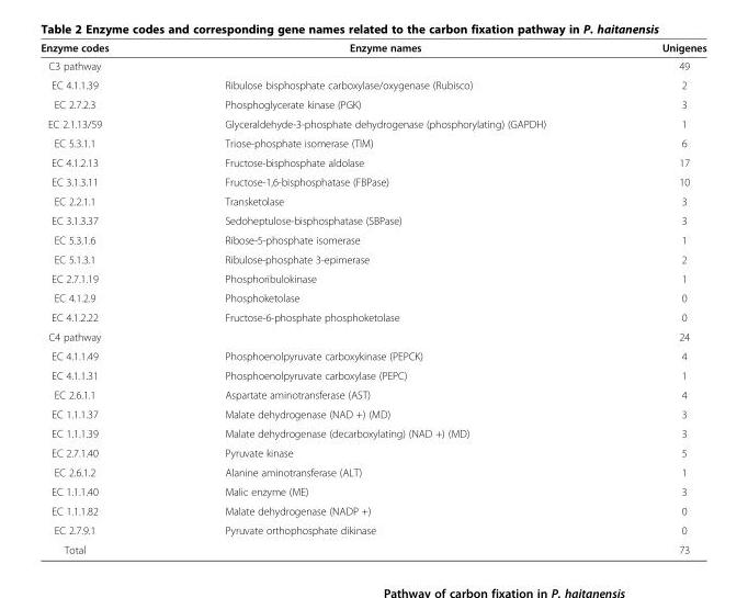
<table><thead><tr><td>Enzyme codes</td><td>Enzyme names</td><td>Unigenes</td></tr></thead><tbody><tr><td>C3 pathway</td><td></td><td>49</td></tr><tr><td>EC 4.1.1.39</td><td>Ribulose bisphosphate carboxylase/oxygenase (Rubisco)</td><td>2</td></tr><tr><td>EC 2.7.2.3</td><td>Phosphoglycerate kinase (PGK)</td><td>3</td></tr><tr><td>EC 2.1.13/59</td><td>Glyceraldehyde-3-phosphate dehydrogenase (phosphorylating) (GAPDH)</td><td>1</td></tr><tr><td>EC 5.3.1.1</td><td>Triose-phosphate isomerase (TIM)</td><td>6</td></tr><tr><td>EC 4.1.2.13</td><td>Fructose-bisphosphate aldolase</td><td>17</td></tr><tr><td>EC 3.1.3.11</td><td>Fructose-1,6-bisphosphatase (FBPase)</td><td>10</td></tr><tr><td>EC 2.2.1.1</td><td>Transketolase</td><td>3</td></tr><tr><td>EC 3.1.3.37</td><td>Sedoheptulose-bisphosphatase (SBPase)</td><td>3</td></tr><tr><td>EC 5.3.1.6</td><td>Ribose-5-phosphate isomerase</td><td>1</td></tr><tr><td>EC 5.1.3.1</td><td>Ribulose-phosphate 3-epimerase</td><td>2</td></tr><tr><td>EC 2.7.1.19</td><td>Phosphoribulokinase</td><td>1</td></tr><tr><td>EC 4.1.2.9</td><td>Phosphoketolase</td><td>0</td></tr><tr><td>EC 4.1.2.22</td><td>Fructose-6-phosphate phosphoketolase</td><td>0</td></tr><tr><td>C4 pathway</td><td></td><td>24</td></tr><tr><td>EC 4.1.1.49</td><td>Phosphoenolpyruvate carboxykinase (PEPCK)</td><td>4</td></tr><tr><td>EC 4.1.1.31</td><td>Phosphoenolpyruvate carboxylase (PEPC)</td><td>1</td></tr><tr><td>EC 2.6.1.1</td><td>Aspartate aminotransferase (AST)</td><td>4</td></tr><tr><td>EC 1.1.1.37</td><td>Malate dehydrogenase (NAD +) (MD)</td><td>3</td></tr><tr><td>EC 1.1.1.39</td><td>Malate dehydrogenase (decarboxylating) (NAD +) (MD)</td><td>3</td></tr><tr><td>EC 2.7.1.40</td><td>Pyruvate kinase</td><td>5</td></tr><tr><td>EC 2.6.1.2</td><td>Alanine aminotransferase (ALT)</td><td>1</td></tr><tr><td>EC 1.1.1.40</td><td>Malic enzyme (ME)</td><td>3</td></tr><tr><td>EC 1.1.1.82</td><td>Malate dehydrogenase (NADP +)</td><td>0</td></tr><tr><td>EC 2.7.9.1</td><td>Pyruvate orthophosphate dikinase</td><td>0</td></tr><tr><td>Total</td><td></td><td>73</td></tr></tbody></table>